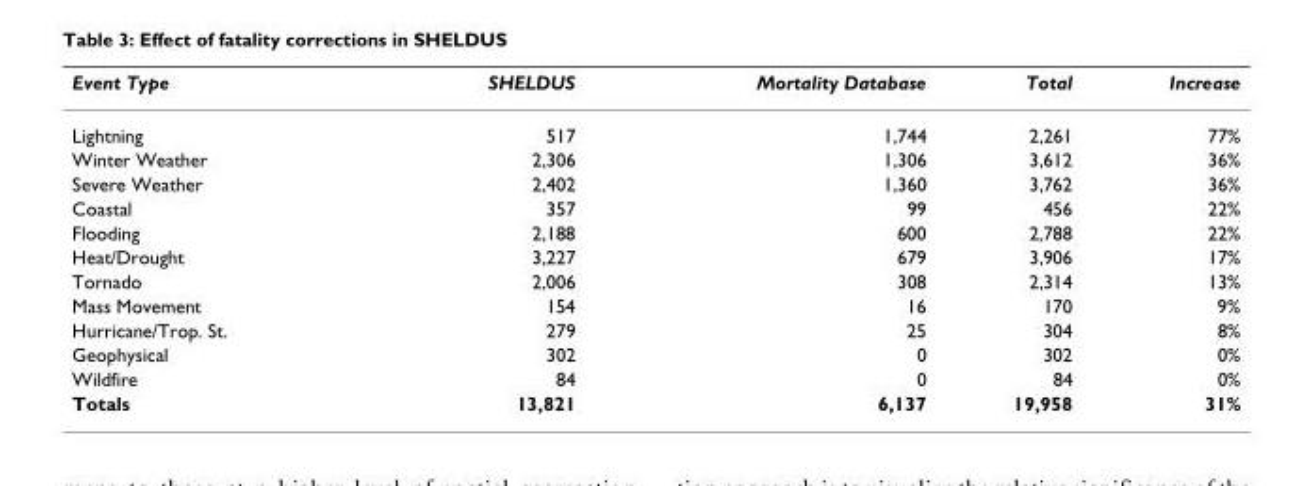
<table><thead><tr><td>Event Type</td><td>SHELDUS</td><td>Mortality Database</td><td>Total</td><td>Increase</td></tr></thead><tbody><tr><td>Lightning</td><td>517</td><td>1,744</td><td>2,261</td><td>77%</td></tr><tr><td>Winter Weather</td><td>2,306</td><td>1,306</td><td>3,612</td><td>36%</td></tr><tr><td>Severe Weather</td><td>2,402</td><td>1,360</td><td>3,762</td><td>36%</td></tr><tr><td>Coastal</td><td>357</td><td>99</td><td>456</td><td>22%</td></tr><tr><td>Flooding</td><td>2,188</td><td>600</td><td>2,788</td><td>22%</td></tr><tr><td>Heat/Drought</td><td>3,227</td><td>679</td><td>3,906</td><td>17%</td></tr><tr><td>Tornado</td><td>2,006</td><td>308</td><td>2,314</td><td>13%</td></tr><tr><td>Mass Movement</td><td>154</td><td>16</td><td>170</td><td>9%</td></tr><tr><td>Hurricane/Trop. St.</td><td>279</td><td>25</td><td>304</td><td>8%</td></tr><tr><td>Geophysical</td><td>302</td><td>0</td><td>302</td><td>0%</td></tr><tr><td>Wildfire</td><td>84</td><td>0</td><td>84</td><td>0%</td></tr><tr><td>Totals</td><td>13,821</td><td>6,137</td><td>19,958</td><td>31%</td></tr></tbody></table>